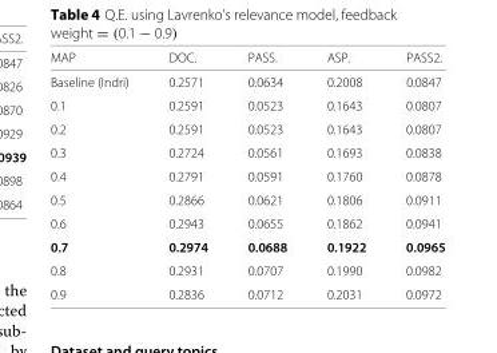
<table><thead><tr><td>MAP</td><td>DOC.</td><td>PASS.</td><td>ASP.</td><td>PASS2.</td></tr></thead><tbody><tr><td>Baseline (Indri)</td><td>0.2571</td><td>0.0634</td><td>0.2008</td><td>0.0847</td></tr><tr><td>0.1</td><td>0.2591</td><td>0.0523</td><td>0.1643</td><td>0.0807</td></tr><tr><td>0.2</td><td>0.2591</td><td>0.0523</td><td>0.1643</td><td>0.0807</td></tr><tr><td>0.3</td><td>0.2724</td><td>0.0561</td><td>0.1693</td><td>0.0838</td></tr><tr><td>0.4</td><td>0.2791</td><td>0.0591</td><td>0.1760</td><td>0.0878</td></tr><tr><td>0.5</td><td>0.2866</td><td>0.0621</td><td>0.1806</td><td>0.0911</td></tr><tr><td>0.6</td><td>0.2943</td><td>0.0655</td><td>0.1862</td><td>0.0941</td></tr><tr><td>0.7</td><td>0.2974</td><td>0.0688</td><td>0.1922</td><td>0.0965</td></tr><tr><td>0.8</td><td>0.2931</td><td>0.0707</td><td>0.1990</td><td>0.0982</td></tr><tr><td>0.9</td><td>0.2836</td><td>0.0712</td><td>0.2031</td><td>0.0972</td></tr></tbody></table>